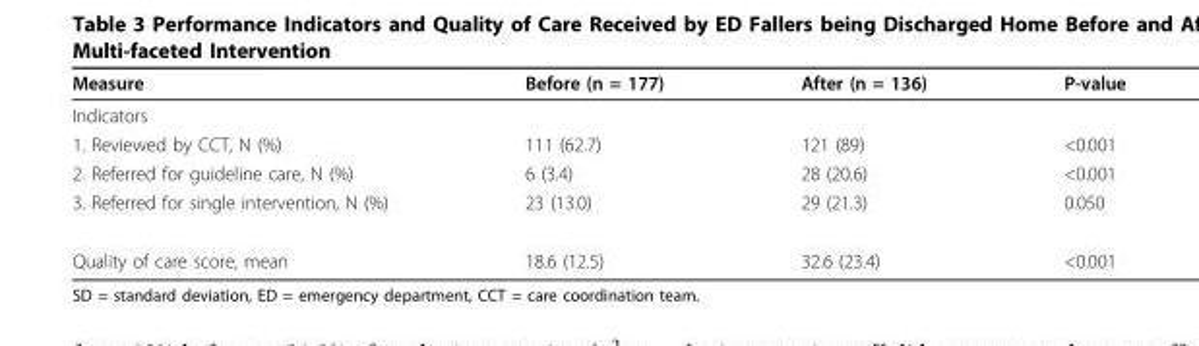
<table><thead><tr><td>Measure</td><td>Before (n = 177)</td><td>After (n = 136)</td><td>P-value</td></tr></thead><tbody><tr><td colspan="4">Indicators</td></tr><tr><td>1. Reviewed by CCT, N (%)</td><td>111 (62.7)</td><td>121 (89)</td><td>&lt;0.001</td></tr><tr><td>2. Referred for guideline care, N (%)</td><td>6 (3.4)</td><td>28 (20.6)</td><td>&lt;0.001</td></tr><tr><td>3. Referred for single intervention, N (%)</td><td>23 (13.0)</td><td>29 (21.3)</td><td>0.050</td></tr><tr><td>Quality of care score, mean</td><td>18.6 (12.5)</td><td>32.6 (23.4)</td><td>&lt;0.001</td></tr></tbody></table>